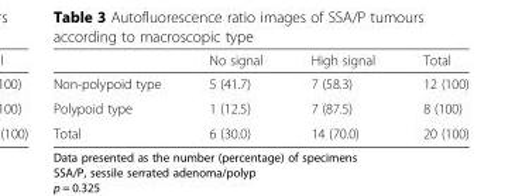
<table><thead><tr><td></td><td>No signal</td><td>High signal</td><td>Total</td></tr></thead><tbody><tr><td>Non-polypoid type</td><td>5 (41.7)</td><td>7 (58.3)</td><td>12 (100)</td></tr><tr><td>Polypoid type</td><td>1 (12.5)</td><td>7 (87.5)</td><td>8 (100)</td></tr><tr><td>Total</td><td>6 (30.0)</td><td>14 (70.0)</td><td>20 (100)</td></tr></tbody></table>